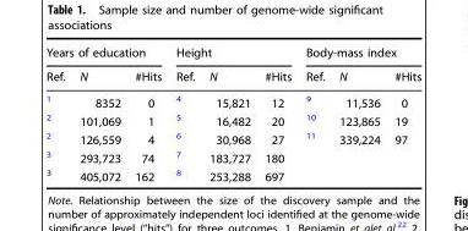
<table><thead><tr><td colspan="3">Years of education</td><td colspan="3">Height</td><td colspan="3">Body-mass index</td></tr><tr><td>Ref.</td><td>N</td><td>#Hits</td><td>Ref.</td><td>N</td><td>#Hits</td><td>Ref.</td><td>N</td><td>#Hits</td></tr></thead><tbody><tr><td><sup>1</sup></td><td>8352</td><td>0</td><td><sup>4</sup></td><td>15,821</td><td>12</td><td><sup>9</sup></td><td>11,536</td><td>0</td></tr><tr><td><sup>2</sup></td><td>101,069</td><td>1</td><td><sup>5</sup></td><td>16,482</td><td>20</td><td><sup>10</sup></td><td>123,865</td><td>19</td></tr><tr><td><sup>2</sup></td><td>126,559</td><td>4</td><td><sup>6</sup></td><td>30,968</td><td>27</td><td><sup>11</sup></td><td>339,224</td><td>97</td></tr><tr><td><sup>3</sup></td><td>293,723</td><td>74</td><td><sup>7</sup></td><td>183,727</td><td>180</td><td></td><td></td><td></td></tr><tr><td><sup>3</sup></td><td>405,072</td><td>162</td><td><sup>8</sup></td><td>253,288</td><td>697</td><td></td><td></td><td></td></tr></tbody></table>